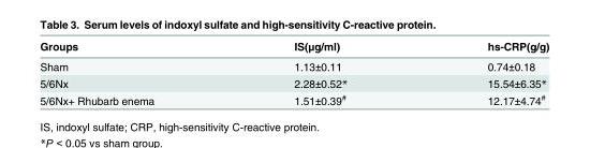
<table><thead><tr><td>Groups</td><td>IS(μg/ml)</td><td>hs-CRP(g/g)</td></tr></thead><tbody><tr><td>Sham</td><td>1.13±0.11</td><td>0.74±0.18</td></tr><tr><td>5/6Nx</td><td>2.28±0.52*</td><td>15.54±6.35*</td></tr><tr><td>5/6Nx+ Rhubarb enema</td><td>1.51±0.39<sup>#</sup></td><td>12.17±4.74<sup>#</sup></td></tr></tbody></table>